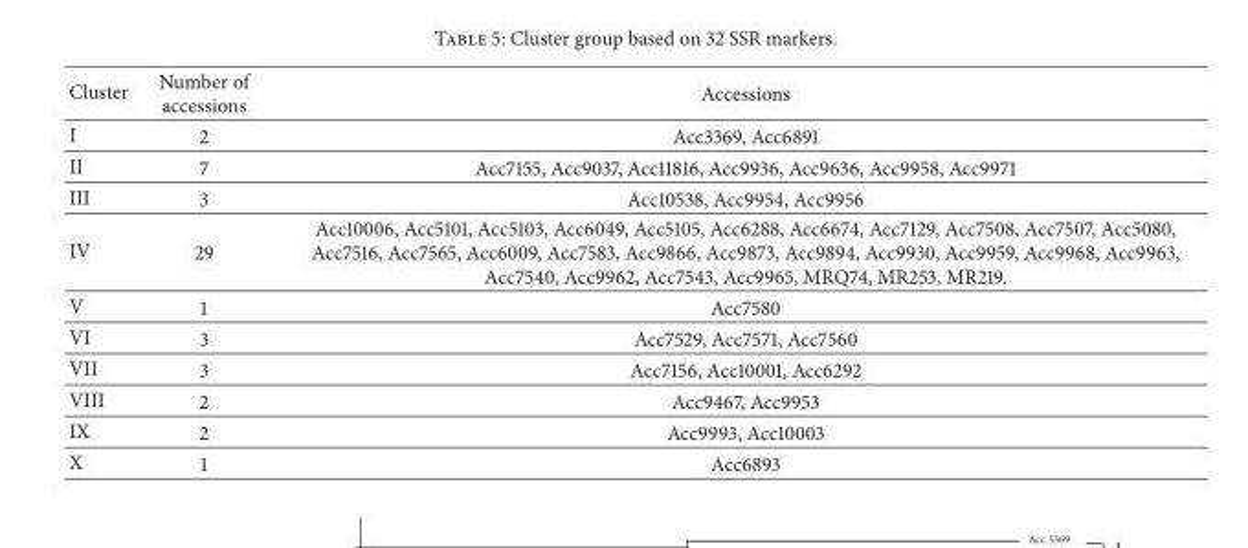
<table><thead><tr><td>Cluster</td><td>Number of accessions</td><td>Accessions</td></tr></thead><tbody><tr><td>I</td><td>2</td><td>Acc3369, Acc6891</td></tr><tr><td>II</td><td>7</td><td>Acc7155, Acc9037, Acc11816, Acc9936, Acc9636, Acc9958, Acc9971</td></tr><tr><td>III</td><td>3</td><td>Acc10538, Acc9954, Acc9956</td></tr><tr><td>IV</td><td>29</td><td>Acc10006, Acc5101, Acc5103, Acc6049, Acc5105, Acc6288, Acc6674, Acc7129, Acc7508, Acc7507, Acc5080, Acc7516, Acc7565, Acc6009, Acc7583, Acc9866, Acc9873, Acc9894, Acc9930, Acc9959, Acc9968, Acc9963, Acc7540, Acc9962, Acc7543, Acc9965, MRQ74, MR253, MR219.</td></tr><tr><td>V</td><td>1</td><td>Acc7580</td></tr><tr><td>VI</td><td>3</td><td>Acc7529, Acc7571, Acc7560</td></tr><tr><td>VII</td><td>3</td><td>Acc7156, Acc10001, Acc6292</td></tr><tr><td>VIII</td><td>2</td><td>Acc9467, Acc9953</td></tr><tr><td>IX</td><td>2</td><td>Acc9993, Acc10003</td></tr><tr><td>X</td><td>1</td><td>Acc6893</td></tr></tbody></table>